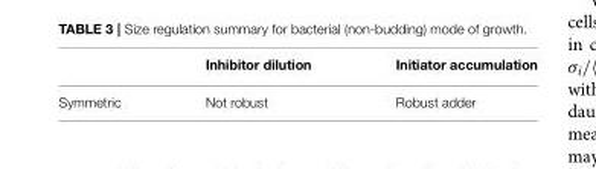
<table><thead><tr><td></td><td>Inhibitor dilution</td><td>Initiator accumulation</td></tr></thead><tbody><tr><td>Symmetric</td><td>Not robust</td><td>Robust adder</td></tr></tbody></table>